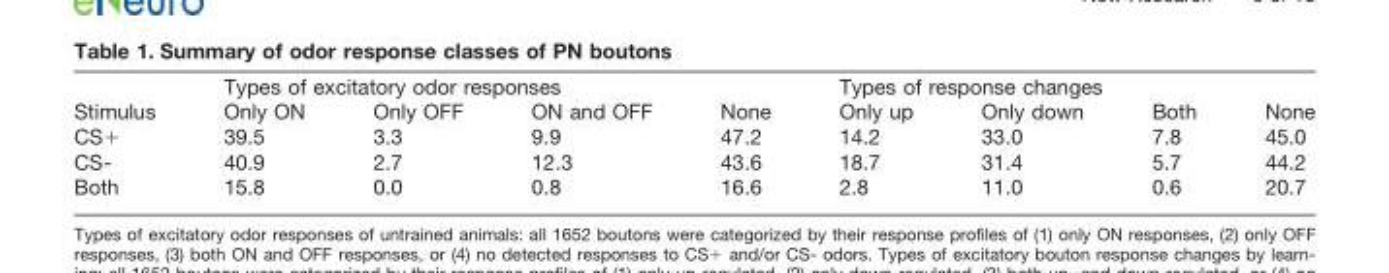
<table><thead><tr><td rowspan="2">Stimulus</td><td colspan="4">Types of excitatory odor responses</td><td colspan="4">Types of response changes</td></tr><tr><td>Only ON</td><td>Only OFF</td><td>ON and OFF</td><td>None</td><td>Only up</td><td>Only down</td><td>Both</td><td>None</td></tr></thead><tbody><tr><td>CS+</td><td>39.5</td><td>3.3</td><td>9.9</td><td>47.2</td><td>14.2</td><td>33.0</td><td>7.8</td><td>45.0</td></tr><tr><td>CS-</td><td>40.9</td><td>2.7</td><td>12.3</td><td>43.6</td><td>18.7</td><td>31.4</td><td>5.7</td><td>44.2</td></tr><tr><td>Both</td><td>15.8</td><td>0.0</td><td>0.8</td><td>16.6</td><td>2.8</td><td>11.0</td><td>0.6</td><td>20.7</td></tr></tbody></table>